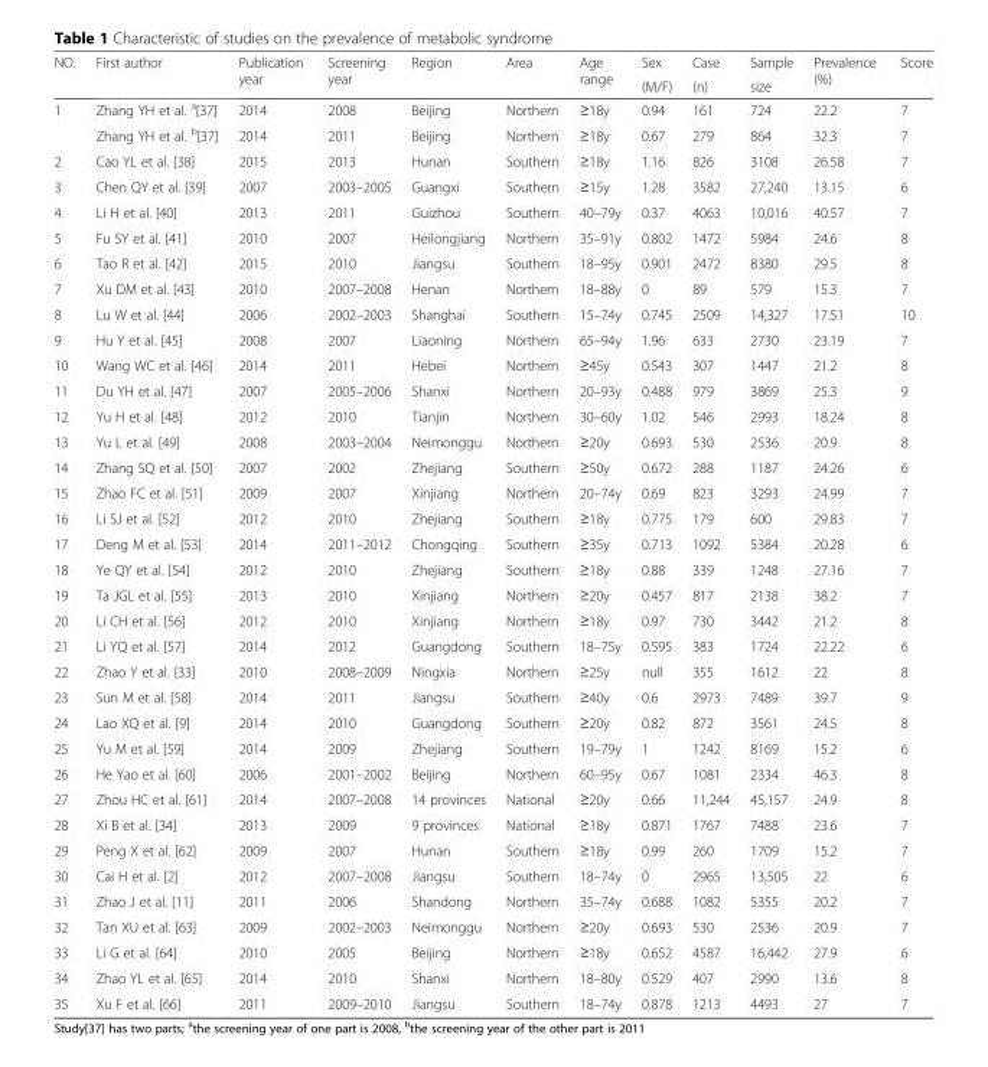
<table><thead><tr><td rowspan="2">NO.</td><td rowspan="2">First author</td><td rowspan="2">Publication year</td><td rowspan="2">Screening year</td><td rowspan="2">Region</td><td rowspan="2">Area</td><td rowspan="2">Age range</td><td rowspan="2">Sex (M/F)</td><td rowspan="2">Case (n)</td><td rowspan="2">Sample size</td><td rowspan="2">Prevalence (%)</td><td rowspan="2">Score</td></tr><tr></tr></thead><tbody><tr><td rowspan="2">1</td><td>Zhang YH et al. <sup>a</sup>[37]</td><td>2014</td><td>2008</td><td>Beijing</td><td>Northern</td><td>≥18y</td><td>0.94</td><td>161</td><td>724</td><td>22.2</td><td>7</td></tr><tr><td>Zhang YH et al. <sup>b</sup>[37]</td><td>2014</td><td>2011</td><td>Beijing</td><td>Northern</td><td>≥18y</td><td>0.67</td><td>279</td><td>864</td><td>32.3</td><td>7</td></tr><tr><td>2</td><td>Cao YL et al. [38]</td><td>2015</td><td>2013</td><td>Hunan</td><td>Southern</td><td>≥18y</td><td>1.16</td><td>826</td><td>3108</td><td>26.58</td><td>7</td></tr><tr><td>3</td><td>Chen QY et al. [39]</td><td>2007</td><td>2003–2005</td><td>Guangxi</td><td>Southern</td><td>≥15y</td><td>1.28</td><td>3582</td><td>27,240</td><td>13.15</td><td>6</td></tr><tr><td>4</td><td>Li H et al. [40]</td><td>2013</td><td>2011</td><td>Guizhou</td><td>Southern</td><td>40–79y</td><td>0.37</td><td>4063</td><td>10,016</td><td>40.57</td><td>7</td></tr><tr><td>5</td><td>Fu SY et al. [41]</td><td>2010</td><td>2007</td><td>Heilongjiang</td><td>Northern</td><td>35–91y</td><td>0.802</td><td>1472</td><td>5984</td><td>24.6</td><td>8</td></tr><tr><td>6</td><td>Tao R et al. [42]</td><td>2015</td><td>2010</td><td>Jiangsu</td><td>Southern</td><td>18–95y</td><td>0.901</td><td>2472</td><td>8380</td><td>29.5</td><td>8</td></tr><tr><td>7</td><td>Xu DM et al. [43]</td><td>2010</td><td>2007–2008</td><td>Henan</td><td>Northern</td><td>18–88y</td><td>0</td><td>89</td><td>579</td><td>15.3</td><td>7</td></tr><tr><td>8</td><td>Lu W et al. [44]</td><td>2006</td><td>2002–2003</td><td>Shanghai</td><td>Southern</td><td>15–74y</td><td>0.745</td><td>2509</td><td>14,327</td><td>17.51</td><td>10</td></tr><tr><td>9</td><td>Hu Y et al. [45]</td><td>2008</td><td>2007</td><td>Liaoning</td><td>Northern</td><td>65–94y</td><td>1.96</td><td>633</td><td>2730</td><td>23.19</td><td>7</td></tr><tr><td>10</td><td>Wang WC et al. [46]</td><td>2014</td><td>2011</td><td>Hebei</td><td>Northern</td><td>≥45y</td><td>0.543</td><td>307</td><td>1447</td><td>21.2</td><td>8</td></tr><tr><td>11</td><td>Du YH et al. [47]</td><td>2007</td><td>2005–2006</td><td>Shanxi</td><td>Northern</td><td>20–93y</td><td>0.488</td><td>979</td><td>3869</td><td>25.3</td><td>9</td></tr><tr><td>12</td><td>Yu H et al. [48]</td><td>2012</td><td>2010</td><td>Tianjin</td><td>Northern</td><td>30–60y</td><td>1.02</td><td>546</td><td>2993</td><td>18.24</td><td>8</td></tr><tr><td>13</td><td>Yu L et al. [49]</td><td>2008</td><td>2003–2004</td><td>Neimonggu</td><td>Northern</td><td>≥20y</td><td>0.693</td><td>530</td><td>2536</td><td>20.9</td><td>8</td></tr><tr><td>14</td><td>Zhang SQ et al. [50]</td><td>2007</td><td>2002</td><td>Zhejiang</td><td>Southern</td><td>≥50y</td><td>0.672</td><td>288</td><td>1187</td><td>24.26</td><td>6</td></tr><tr><td>15</td><td>Zhao FC et al. [51]</td><td>2009</td><td>2007</td><td>Xinjiang</td><td>Northern</td><td>20–74y</td><td>0.69</td><td>823</td><td>3293</td><td>24.99</td><td>7</td></tr><tr><td>16</td><td>Li SJ et al. [52]</td><td>2012</td><td>2010</td><td>Zhejiang</td><td>Southern</td><td>≥18y</td><td>0.775</td><td>179</td><td>600</td><td>29.83</td><td>7</td></tr><tr><td>17</td><td>Deng M et al. [53]</td><td>2014</td><td>2011–2012</td><td>Chongqing</td><td>Southern</td><td>≥35y</td><td>0.713</td><td>1092</td><td>5384</td><td>20.28</td><td>6</td></tr><tr><td>18</td><td>Ye QY et al. [54]</td><td>2012</td><td>2010</td><td>Zhejiang</td><td>Southern</td><td>≥18y</td><td>0.88</td><td>339</td><td>1248</td><td>27.16</td><td>7</td></tr><tr><td>19</td><td>Ta JGL et al. [55]</td><td>2013</td><td>2010</td><td>Xinjiang</td><td>Northern</td><td>≥20y</td><td>0.457</td><td>817</td><td>2138</td><td>38.2</td><td>7</td></tr><tr><td>20</td><td>Li CH et al. [56]</td><td>2012</td><td>2010</td><td>Xinjiang</td><td>Northern</td><td>≥18y</td><td>0.97</td><td>730</td><td>3442</td><td>21.2</td><td>8</td></tr><tr><td>21</td><td>Li YQ et al. [57]</td><td>2014</td><td>2012</td><td>Guangdong</td><td>Southern</td><td>18–75y</td><td>0.595</td><td>383</td><td>1724</td><td>22.22</td><td>6</td></tr><tr><td>22</td><td>Zhao Y et al. [33]</td><td>2010</td><td>2008–2009</td><td>Ningxia</td><td>Northern</td><td>≥25y</td><td>null</td><td>355</td><td>1612</td><td>22</td><td>8</td></tr><tr><td>23</td><td>Sun M et al. [58]</td><td>2014</td><td>2011</td><td>Jiangsu</td><td>Southern</td><td>≥40y</td><td>0.6</td><td>2973</td><td>7489</td><td>39.7</td><td>9</td></tr><tr><td>24</td><td>Lao XQ et al. [9]</td><td>2014</td><td>2010</td><td>Guangdong</td><td>Southern</td><td>≥20y</td><td>0.82</td><td>872</td><td>3561</td><td>24.5</td><td>8</td></tr><tr><td>25</td><td>Yu M et al. [59]</td><td>2014</td><td>2009</td><td>Zhejiang</td><td>Southern</td><td>19–79y</td><td>1</td><td>1242</td><td>8169</td><td>15.2</td><td>6</td></tr><tr><td>26</td><td>He Yao et al. [60]</td><td>2006</td><td>2001–2002</td><td>Beijing</td><td>Northern</td><td>60–95y</td><td>0.67</td><td>1081</td><td>2334</td><td>46.3</td><td>8</td></tr><tr><td>27</td><td>Zhou HC et al. [61]</td><td>2014</td><td>2007–2008</td><td>14 provinces</td><td>National</td><td>≥20y</td><td>0.66</td><td>11,244</td><td>45,157</td><td>24.9</td><td>8</td></tr><tr><td>28</td><td>Xi B et al. [34]</td><td>2013</td><td>2009</td><td>9 provinces</td><td>National</td><td>≥18y</td><td>0.871</td><td>1767</td><td>7488</td><td>23.6</td><td>7</td></tr><tr><td>29</td><td>Peng X et al. [62]</td><td>2009</td><td>2007</td><td>Hunan</td><td>Southern</td><td>≥18y</td><td>0.99</td><td>260</td><td>1709</td><td>15.2</td><td>7</td></tr><tr><td>30</td><td>Cai H et al. [2]</td><td>2012</td><td>2007–2008</td><td>Jiangsu</td><td>Southern</td><td>18–74y</td><td>0</td><td>2965</td><td>13,505</td><td>22</td><td>6</td></tr><tr><td>31</td><td>Zhao J et al. [11]</td><td>2011</td><td>2006</td><td>Shandong</td><td>Northern</td><td>35–74y</td><td>0.688</td><td>1082</td><td>5355</td><td>20.2</td><td>7</td></tr><tr><td>32</td><td>Tan XU et al. [63]</td><td>2009</td><td>2002–2003</td><td>Neimonggu</td><td>Northern</td><td>≥20y</td><td>0.693</td><td>530</td><td>2536</td><td>20.9</td><td>7</td></tr><tr><td>33</td><td>Li G et al. [64]</td><td>2010</td><td>2005</td><td>Beijing</td><td>Northern</td><td>≥18y</td><td>0.652</td><td>4587</td><td>16,442</td><td>27.9</td><td>6</td></tr><tr><td>34</td><td>Zhao YL et al. [65]</td><td>2014</td><td>2010</td><td>Shanxi</td><td>Northern</td><td>18–80y</td><td>0.529</td><td>407</td><td>2990</td><td>13.6</td><td>8</td></tr><tr><td>35</td><td>Xu F et al. [66]</td><td>2011</td><td>2009–2010</td><td>Jiangsu</td><td>Southern</td><td>18–74y</td><td>0.878</td><td>1213</td><td>4493</td><td>27</td><td>7</td></tr></tbody></table>